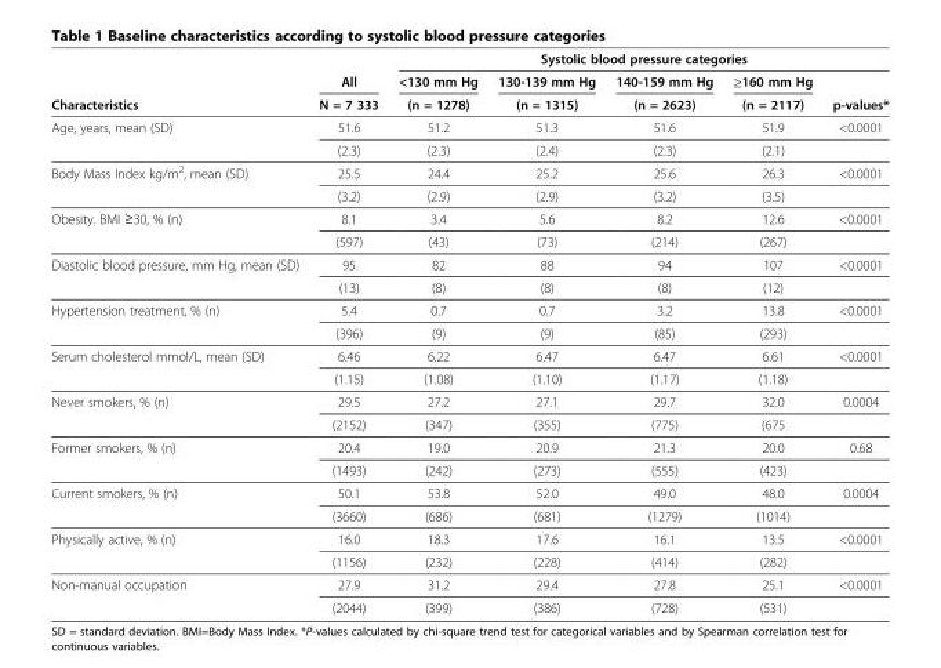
<table><thead><tr><td rowspan="3">Characteristics</td><td rowspan="3">All N = 7 333</td><td colspan="5">Systolic blood pressure categories</td></tr><tr><td rowspan="2">&lt;130 mm Hg (n = 1278)</td><td rowspan="2">130-139 mm Hg (n = 1315)</td><td rowspan="2">140-159 mm Hg (n = 2623)</td><td rowspan="2">≥160 mm Hg (n = 2117)</td><td rowspan="2">p-values*</td></tr><tr></tr></thead><tbody><tr><td rowspan="2">Age, years, mean (SD)</td><td>51.6</td><td>51.2</td><td>51.3</td><td>51.6</td><td>51.9</td><td>&lt;0.0001</td></tr><tr><td>(2.3)</td><td>(2.3)</td><td>(2.4)</td><td>(2.3)</td><td>(2.1)</td><td></td></tr><tr><td rowspan="2">Body Mass Index kg/m<sup>2</sup>, mean (SD)</td><td>25.5</td><td>24.4</td><td>25.2</td><td>25.6</td><td>26.3</td><td>&lt;0.0001</td></tr><tr><td>(3.2)</td><td>(2.9)</td><td>(2.9)</td><td>(3.2)</td><td>(3.5)</td><td></td></tr><tr><td rowspan="2">Obesity. BMI ≥30, % (n)</td><td>8.1</td><td>3.4</td><td>5.6</td><td>8.2</td><td>12.6</td><td>&lt;0.0001</td></tr><tr><td>(597)</td><td>(43)</td><td>(73)</td><td>(214)</td><td>(267)</td><td></td></tr><tr><td rowspan="2">Diastolic blood pressure, mm Hg, mean (SD)</td><td>95</td><td>82</td><td>88</td><td>94</td><td>107</td><td>&lt;0.0001</td></tr><tr><td>(13)</td><td>(8)</td><td>(8)</td><td>(8)</td><td>(12)</td><td></td></tr><tr><td rowspan="2">Hypertension treatment, % (n)</td><td>5.4</td><td>0.7</td><td>0.7</td><td>3.2</td><td>13.8</td><td>&lt;0.0001</td></tr><tr><td>(396)</td><td>(9)</td><td>(9)</td><td>(85)</td><td>(293)</td><td></td></tr><tr><td rowspan="2">Serum cholesterol mmol/L, mean (SD)</td><td>6.46</td><td>6.22</td><td>6.47</td><td>6.47</td><td>6.61</td><td>&lt;0.0001</td></tr><tr><td>(1.15)</td><td>(1.08)</td><td>(1.10)</td><td>(1.17)</td><td>(1.18)</td><td></td></tr><tr><td rowspan="2">Never smokers, % (n)</td><td>29.5</td><td>27.2</td><td>27.1</td><td>29.7</td><td>32.0</td><td>0.0004</td></tr><tr><td>(2152)</td><td>(347)</td><td>(355)</td><td>(775)</td><td>(675</td><td></td></tr><tr><td rowspan="2">Former smokers, % (n)</td><td>20.4</td><td>19.0</td><td>20.9</td><td>21.3</td><td>20.0</td><td>0.68</td></tr><tr><td>(1493)</td><td>(242)</td><td>(273)</td><td>(555)</td><td>(423)</td><td></td></tr><tr><td rowspan="2">Current smokers, % (n)</td><td>50.1</td><td>53.8</td><td>52.0</td><td>49.0</td><td>48.0</td><td>0.0004</td></tr><tr><td>(3660)</td><td>(686)</td><td>(681)</td><td>(1279)</td><td>(1014)</td><td></td></tr><tr><td rowspan="2">Physically active, % (n)</td><td>16.0</td><td>18.3</td><td>17.6</td><td>16.1</td><td>13.5</td><td>&lt;0.0001</td></tr><tr><td>(1156)</td><td>(232)</td><td>(228)</td><td>(414)</td><td>(282)</td><td></td></tr><tr><td rowspan="2">Non-manual occupation</td><td>27.9</td><td>31.2</td><td>29.4</td><td>27.8</td><td>25.1</td><td>&lt;0.0001</td></tr><tr><td>(2044)</td><td>(399)</td><td>(386)</td><td>(728)</td><td>(531)</td><td></td></tr></tbody></table>